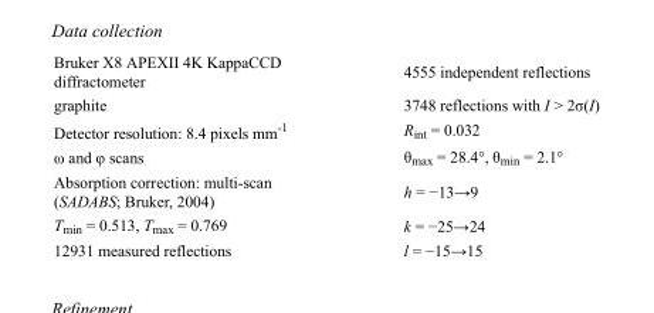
<table><tbody><tr><td>Bruker X8 APEXII 4K KappaCCD diffractometer</td><td>4555 independent reflections</td></tr><tr><td>graphite</td><td>3748 reflections with I &gt; 2σ(I)</td></tr><tr><td>Detector resolution: 8.4 pixels mm<sup>-1</sup></td><td>R<sub>int</sub> = 0.032</td></tr><tr><td>ω and φ scans</td><td>θ<sub>max</sub> = 28.4°, θ<sub>min</sub> = 2.1°</td></tr><tr><td>Absorption correction: multi-scan (SADABS; Bruker, 2004)</td><td>h = −13→9</td></tr><tr><td>T<sub>min</sub> = 0.513, T<sub>max</sub> = 0.769</td><td>k = −25→24</td></tr><tr><td>12931 measured reflections</td><td>l = −15→15</td></tr></tbody></table>